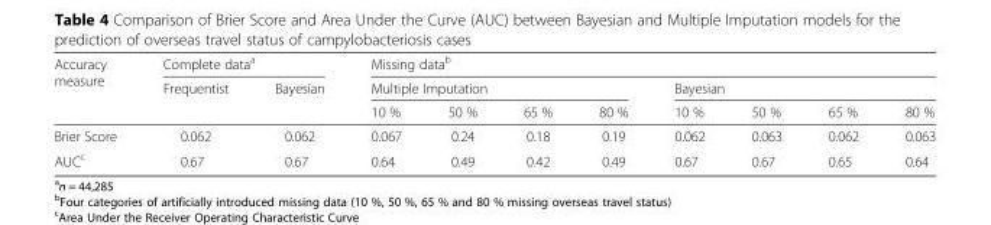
<table><thead><tr><td rowspan="3">Accuracy measure</td><td colspan="2">Complete data<sup>a</sup></td><td colspan="8">Missing data<sup>b</sup></td></tr><tr><td rowspan="2">Frequentist</td><td rowspan="2">Bayesian</td><td colspan="4">Multiple Imputation</td><td colspan="4">Bayesian</td></tr><tr><td>10 %</td><td>50 %</td><td>65 %</td><td>80 %</td><td>10 %</td><td>50 %</td><td>65 %</td><td>80 %</td></tr></thead><tbody><tr><td>Brier Score</td><td>0.062</td><td>0.062</td><td>0.067</td><td>0.24</td><td>0.18</td><td>0.19</td><td>0.062</td><td>0.063</td><td>0.062</td><td>0.063</td></tr><tr><td>AUC<sup>c</sup></td><td>0.67</td><td>0.67</td><td>0.64</td><td>0.49</td><td>0.42</td><td>0.49</td><td>0.67</td><td>0.67</td><td>0.65</td><td>0.64</td></tr></tbody></table>